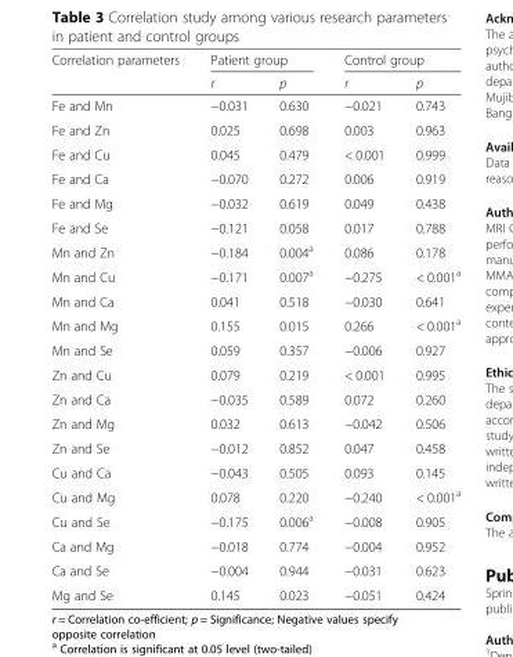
<table><thead><tr><td rowspan="2">Correlation parameters</td><td colspan="2">Patient group</td><td colspan="2">Control group</td></tr><tr><td>r</td><td>p</td><td>r</td><td>p</td></tr></thead><tbody><tr><td>Fe and Mn</td><td>−0.031</td><td>0.630</td><td>−0.021</td><td>0.743</td></tr><tr><td>Fe and Zn</td><td>0.025</td><td>0.698</td><td>0.003</td><td>0.963</td></tr><tr><td>Fe and Cu</td><td>0.045</td><td>0.479</td><td>&lt; 0.001</td><td>0.999</td></tr><tr><td>Fe and Ca</td><td>−0.070</td><td>0.272</td><td>0.006</td><td>0.919</td></tr><tr><td>Fe and Mg</td><td>−0.032</td><td>0.619</td><td>0.049</td><td>0.438</td></tr><tr><td>Fe and Se</td><td>−0.121</td><td>0.058</td><td>0.017</td><td>0.788</td></tr><tr><td>Mn and Zn</td><td>−0.184</td><td>0.004<sup>a</sup></td><td>0.086</td><td>0.178</td></tr><tr><td>Mn and Cu</td><td>−0.171</td><td>0.007<sup>a</sup></td><td>−0.275</td><td>&lt; 0.001<sup>a</sup></td></tr><tr><td>Mn and Ca</td><td>0.041</td><td>0.518</td><td>−0.030</td><td>0.641</td></tr><tr><td>Mn and Mg</td><td>0.155</td><td>0.015</td><td>0.266</td><td>&lt; 0.001<sup>a</sup></td></tr><tr><td>Mn and Se</td><td>0.059</td><td>0.357</td><td>−0.006</td><td>0.927</td></tr><tr><td>Zn and Cu</td><td>0.079</td><td>0.219</td><td>&lt; 0.001</td><td>0.995</td></tr><tr><td>Zn and Ca</td><td>−0.035</td><td>0.589</td><td>0.072</td><td>0.260</td></tr><tr><td>Zn and Mg</td><td>0.032</td><td>0.613</td><td>−0.042</td><td>0.506</td></tr><tr><td>Zn and Se</td><td>−0.012</td><td>0.852</td><td>0.047</td><td>0.458</td></tr><tr><td>Cu and Ca</td><td>−0.043</td><td>0.505</td><td>0.093</td><td>0.145</td></tr><tr><td>Cu and Mg</td><td>0.078</td><td>0.220</td><td>−0.240</td><td>&lt; 0.001<sup>a</sup></td></tr><tr><td>Cu and Se</td><td>−0.175</td><td>0.006<sup>a</sup></td><td>−0.008</td><td>0.905</td></tr><tr><td>Ca and Mg</td><td>−0.018</td><td>0.774</td><td>−0.004</td><td>0.952</td></tr><tr><td>Ca and Se</td><td>−0.004</td><td>0.944</td><td>−0.031</td><td>0.623</td></tr><tr><td>Mg and Se</td><td>0.145</td><td>0.023</td><td>−0.051</td><td>0.424</td></tr></tbody></table>